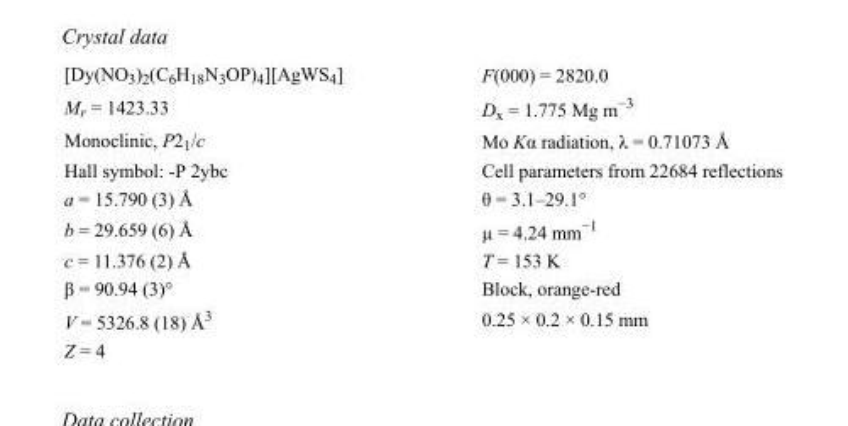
<table><tbody><tr><td>[Dy(NO<sub>3</sub>)<sub>2</sub>(C<sub>6</sub>H<sub>18</sub>N<sub>3</sub>OP)<sub>4</sub>][AgWS<sub>4</sub>]</td><td>F(000) = 2820.0</td></tr><tr><td>M<sub>r</sub> = 1423.33</td><td>D<sub>x</sub> = 1.775 Mg m<sup>−3</sup></td></tr><tr><td>Monoclinic, P2<sub>1</sub>/c</td><td>Mo Kα radiation, λ = 0.71073 Å</td></tr><tr><td>Hall symbol: -P 2ybc</td><td>Cell parameters from 22684 reflections</td></tr><tr><td>a = 15.790 (3) Å</td><td>θ = 3.1–29.1°</td></tr><tr><td>b = 29.659 (6) Å</td><td>µ = 4.24 mm<sup>−1</sup></td></tr><tr><td>c = 11.376 (2) Å</td><td>T = 153 K</td></tr><tr><td>β = 90.94 (3)°</td><td>Block, orange-red</td></tr><tr><td>V = 5326.8 (18) Å<sup>3</sup></td><td>0.25 × 0.2 × 0.15 mm</td></tr><tr><td>Z = 4</td><td></td></tr></tbody></table>